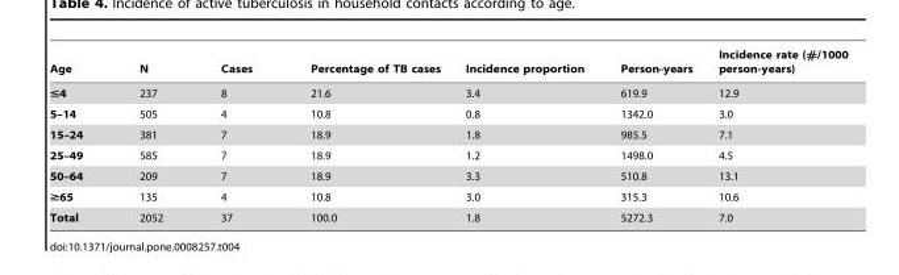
<table><thead><tr><td>Age</td><td>N</td><td>Cases</td><td>Percentage of TB cases</td><td>Incidence proportion</td><td>Person-years</td><td>Incidence rate (#/1000 person-years)</td></tr></thead><tbody><tr><td>≤4</td><td>237</td><td>8</td><td>21.6</td><td>3.4</td><td>619.9</td><td>12.9</td></tr><tr><td>5–14</td><td>505</td><td>4</td><td>10.8</td><td>0.8</td><td>1342.0</td><td>3.0</td></tr><tr><td>15–24</td><td>381</td><td>7</td><td>18.9</td><td>1.8</td><td>985.5</td><td>7.1</td></tr><tr><td>25–49</td><td>585</td><td>7</td><td>18.9</td><td>1.2</td><td>1498.0</td><td>4.5</td></tr><tr><td>50–64</td><td>209</td><td>7</td><td>18.9</td><td>3.3</td><td>510.8</td><td>13.1</td></tr><tr><td>≥65</td><td>135</td><td>4</td><td>10.8</td><td>3.0</td><td>315.3</td><td>10.6</td></tr><tr><td>Total</td><td>2052</td><td>37</td><td>100.0</td><td>1.8</td><td>5272.3</td><td>7.0</td></tr></tbody></table>